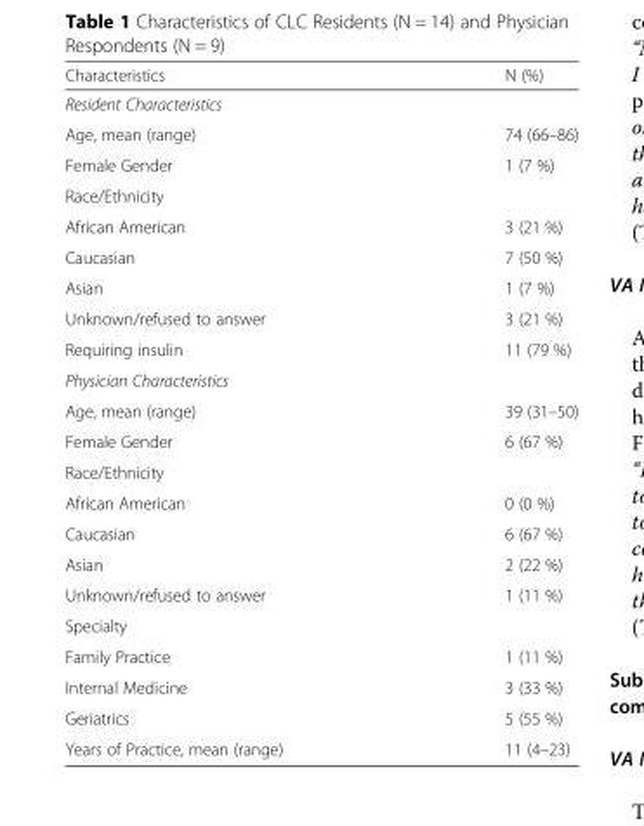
<table><thead><tr><td>Characteristics</td><td>N (%)</td></tr></thead><tbody><tr><td colspan="2">Resident Characteristics</td></tr><tr><td>Age, mean (range)</td><td>74 (66–86)</td></tr><tr><td>Female Gender</td><td>1 (7 %)</td></tr><tr><td colspan="2">Race/Ethnicity</td></tr><tr><td>African American</td><td>3 (21 %)</td></tr><tr><td>Caucasian</td><td>7 (50 %)</td></tr><tr><td>Asian</td><td>1 (7 %)</td></tr><tr><td>Unknown/refused to answer</td><td>3 (21 %)</td></tr><tr><td>Requiring insulin</td><td>11 (79 %)</td></tr><tr><td colspan="2">Physician Characteristics</td></tr><tr><td>Age, mean (range)</td><td>39 (31–50)</td></tr><tr><td>Female Gender</td><td>6 (67 %)</td></tr><tr><td colspan="2">Race/Ethnicity</td></tr><tr><td>African American</td><td>0 (0 %)</td></tr><tr><td>Caucasian</td><td>6 (67 %)</td></tr><tr><td>Asian</td><td>2 (22 %)</td></tr><tr><td>Unknown/refused to answer</td><td>1 (11 %)</td></tr><tr><td colspan="2">Specialty</td></tr><tr><td>Family Practice</td><td>1 (11 %)</td></tr><tr><td>Internal Medicine</td><td>3 (33 %)</td></tr><tr><td>Geriatrics</td><td>5 (55 %)</td></tr><tr><td>Years of Practice, mean (range)</td><td>11 (4–23)</td></tr></tbody></table>